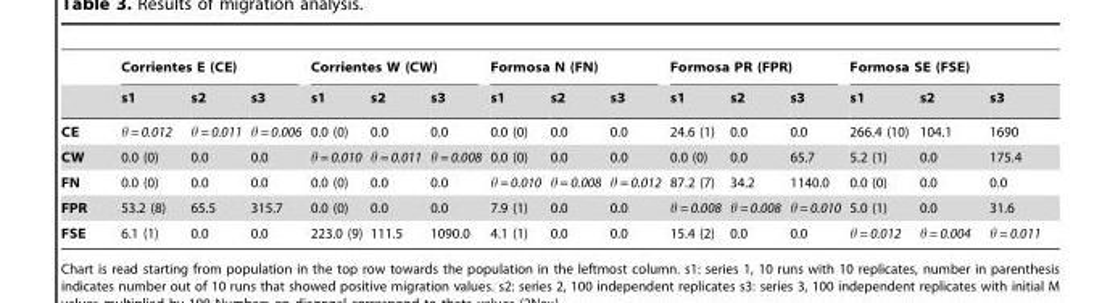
<table><thead><tr><td rowspan="2"></td><td colspan="3">Corrientes E (CE)</td><td colspan="3">Corrientes W (CW)</td><td colspan="3">Formosa N (FN)</td><td colspan="3">Formosa PR (FPR)</td><td colspan="3">Formosa SE (FSE)</td></tr><tr><td>s1</td><td>s2</td><td>s3</td><td>s1</td><td>s2</td><td>s3</td><td>s1</td><td>s2</td><td>s3</td><td>s1</td><td>s2</td><td>s3</td><td>s1</td><td>s2</td><td>s3</td></tr></thead><tbody><tr><td>CE</td><td>θ = 0.012</td><td>θ = 0.011</td><td>θ = 0.006</td><td>0.0 (0)</td><td>0.0</td><td>0.0</td><td>0.0 (0)</td><td>0.0</td><td>0.0</td><td>24.6 (1)</td><td>0.0</td><td>0.0</td><td>266.4 (10)</td><td>104.1</td><td>1690</td></tr><tr><td>CW</td><td>0.0 (0)</td><td>0.0</td><td>0.0</td><td>θ = 0.010</td><td>θ = 0.011</td><td>θ = 0.008</td><td>0.0 (0)</td><td>0.0</td><td>0.0</td><td>0.0 (0)</td><td>0.0</td><td>65.7</td><td>5.2 (1)</td><td>0.0</td><td>175.4</td></tr><tr><td>FN</td><td>0.0 (0)</td><td>0.0</td><td>0.0</td><td>0.0 (0)</td><td>0.0</td><td>0.0</td><td>θ = 0.010</td><td>θ = 0.008</td><td>θ = 0.012</td><td>87.2 (7)</td><td>34.2</td><td>1140.0</td><td>0.0 (0)</td><td>0.0</td><td>0.0</td></tr><tr><td>FPR</td><td>53.2 (8)</td><td>65.5</td><td>315.7</td><td>0.0 (0)</td><td>0.0</td><td>0.0</td><td>7.9 (1)</td><td>0.0</td><td>0.0</td><td>θ = 0.008</td><td>θ = 0.008</td><td>θ = 0.010</td><td>5.0 (1)</td><td>0.0</td><td>31.6</td></tr><tr><td>FSE</td><td>6.1 (1)</td><td>0.0</td><td>0.0</td><td>223.0 (9)</td><td>111.5</td><td>1090.0</td><td>4.1 (1)</td><td>0.0</td><td>0.0</td><td>15.4 (2)</td><td>0.0</td><td>0.0</td><td>θ = 0.012</td><td>θ = 0.004</td><td>θ = 0.011</td></tr></tbody></table>